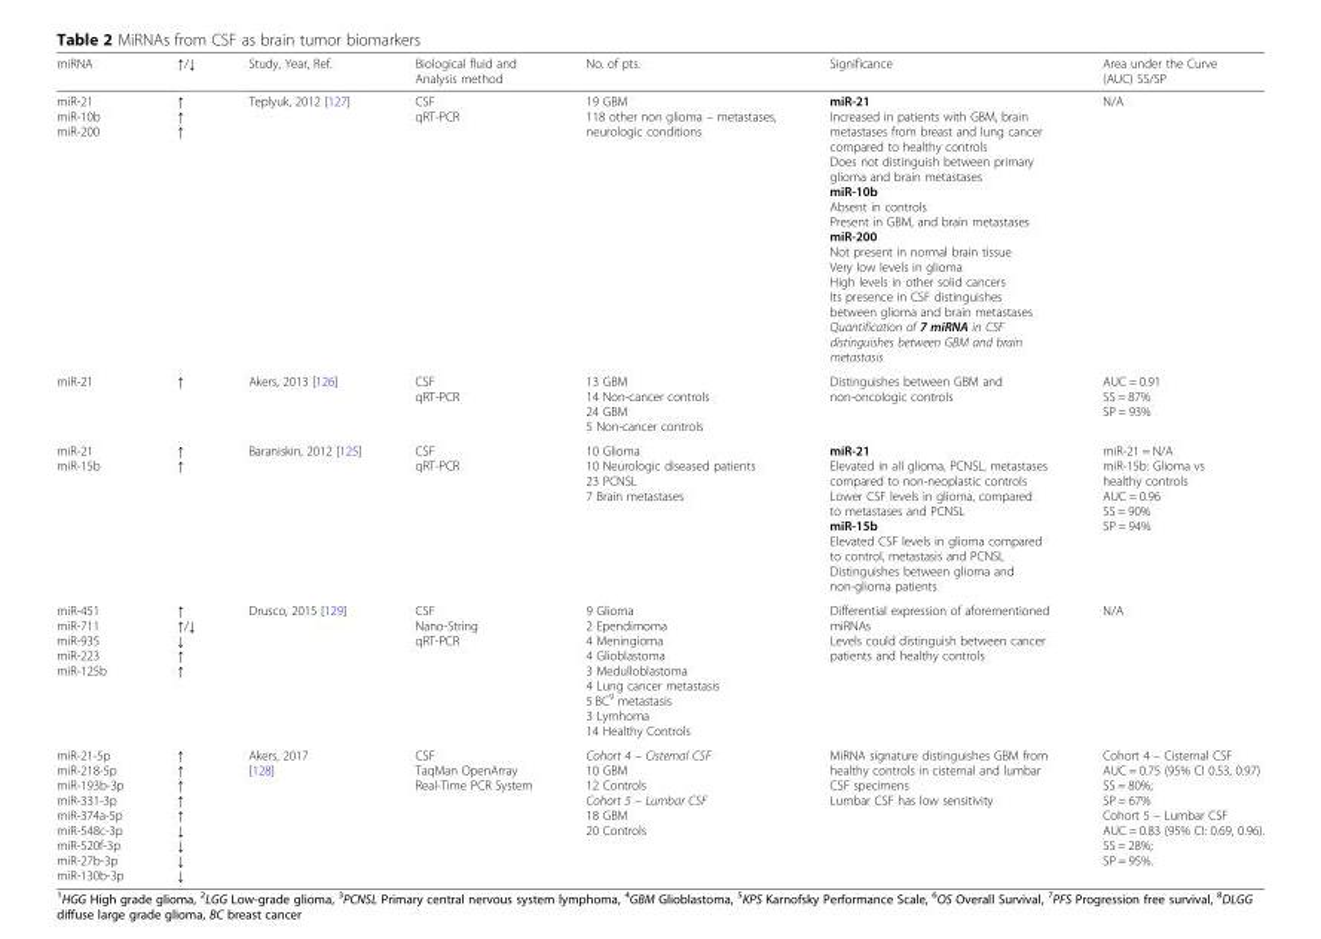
<table><thead><tr><td>miRNA</td><td>↑/↓</td><td>Study, Year, Ref.</td><td>Biological fluid and Analysis method</td><td>No. of pts.</td><td>Significance</td><td>Area under the Curve (AUC) SS/SP</td></tr></thead><tbody><tr><td>miR-21 miR-10b miR-200</td><td>↑ ↑ ↑</td><td>Teplyuk, 2012 [127]</td><td>CSF qRT-PCR</td><td>19 GBM 118 other non glioma – metastases, neurologic conditions</td><td>miR-21 Increased in patients with GBM, brain metastases from breast and lung cancer compared to healthy controls Does not distinguish between primary glioma and brain metastases miR-10b Absent in controls Present in GBM, and brain metastases miR-200 Not present in normal brain tissue Very low levels in glioma High levels in other solid cancers Its presence in CSF distinguishes between glioma and brain metastases Quantification of 7 miRNA in CSF distinguishes between GBM and brain metastasis</td><td>N/A</td></tr><tr><td>miR-21</td><td>↑</td><td>Akers, 2013 [126]</td><td>CSF qRT-PCR</td><td>13 GBM 14 Non-cancer controls 24 GBM 5 Non-cancer controls</td><td>Distinguishes between GBM and non-oncologic controls</td><td>AUC = 0.91 SS = 87% SP = 93%</td></tr><tr><td>miR-21 miR-15b</td><td>↑ ↑</td><td>Baraniskin, 2012 [125]</td><td>CSF qRT-PCR</td><td>10 Glioma 10 Neurologic diseased patients 23 PCNSL 7 Brain metastases</td><td>miR-21 Elevated in all glioma, PCNSL, metastases compared to non-neoplastic controls Lower CSF levels in glioma, compared to metastases and PCNSL miR-15b Elevated CSF levels in glioma compared to control, metastasis and PCNSL Distinguishes between glioma and non-glioma patients</td><td>miR-21 = N/A miR-15b: Glioma vs healthy controls AUC = 0.96 SS = 90% SP = 94%</td></tr><tr><td>miR-451 miR-711 miR-935 miR-223 miR-125b</td><td>↑ ↑/↓ ↓ ↑ ↑</td><td>Drusco, 2015 [129]</td><td>CSF Nano-String qRT-PCR</td><td>9 Glioma 2 Ependimoma 4 Meningioma 4 Glioblastoma 3 Medulloblastoma 4 Lung cancer metastasis 5 BC<sup>9</sup> metastasis 3 Lymhoma 14 Healthy Controls</td><td>Differential expression of aforementioned miRNAs Levels could distinguish between cancer patients and healthy controls</td><td>N/A</td></tr><tr><td>miR-21-5p miR-218-5p miR-193b-3p miR-331-3p miR-374a-5p miR-548c-3p miR-520f-3p miR-27b-3p miR-130b-3p</td><td>↑ ↑ ↑ ↑ ↑ ↓ ↓ ↓ ↓</td><td>Akers, 2017 [128]</td><td>CSF TaqMan OpenArray Real-Time PCR System</td><td>Cohort 4 – Cisternal CSF 10 GBM 12 Controls Cohort 5 – Lumbar CSF 18 GBM 20 Controls</td><td>MiRNA signature distinguishes GBM from healthy controls in cisternal and lumbar CSF specimens Lumbar CSF has low sensitivity</td><td>Cohort 4 – Cisternal CSF AUC = 0.75 (95% CI 0.53, 0.97) SS = 80%; SP = 67% Cohort 5 – Lumbar CSF AUC = 0.83 (95% CI: 0.69, 0.96). SS = 28%; SP = 95%.</td></tr></tbody></table>